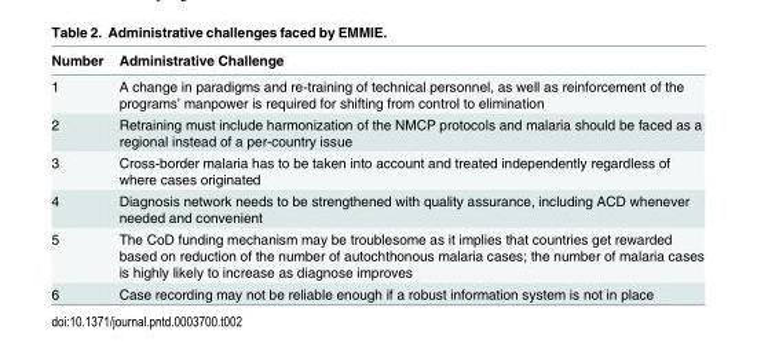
<table><thead><tr><td>Number</td><td>Administrative Challenge</td></tr></thead><tbody><tr><td>1</td><td>A change in paradigms and re-training of technical personnel, as well as reinforcement of the programs’ manpower is required for shifting from control to elimination</td></tr><tr><td>2</td><td>Retraining must include harmonization of the NMCP protocols and malaria should be faced as a regional instead of a per-country issue</td></tr><tr><td>3</td><td>Cross-border malaria has to be taken into account and treated independently regardless of where cases originated</td></tr><tr><td>4</td><td>Diagnosis network needs to be strengthened with quality assurance, including ACD whenever needed and convenient</td></tr><tr><td>5</td><td>The CoD funding mechanism may be troublesome as it implies that countries get rewarded based on reduction of the number of autochthonous malaria cases; the number of malaria cases is highly likely to increase as diagnose improves</td></tr><tr><td>6</td><td>Case recording may not be reliable enough if a robust information system is not in place</td></tr></tbody></table>